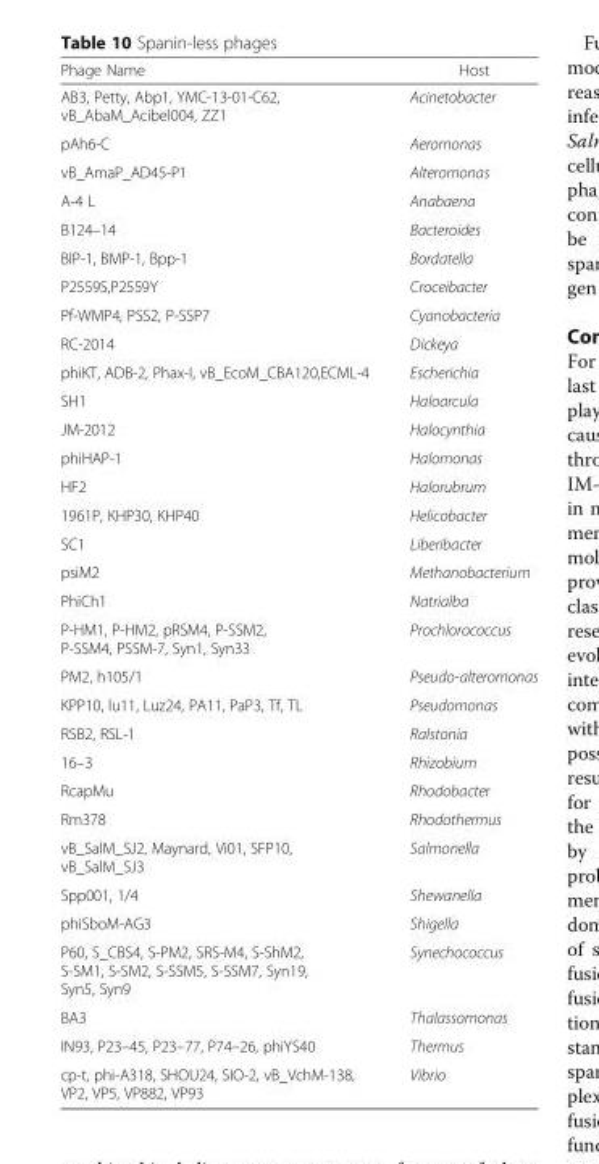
<table><thead><tr><td>Phage Name</td><td>Host</td></tr></thead><tbody><tr><td>AB3, Petty, Abp1, YMC-13-01-C62, vB_AbaM_Acibel004, ZZ1</td><td>Acinetobacter</td></tr><tr><td>pAh6-C</td><td>Aeromonas</td></tr><tr><td>vB_AmaP_AD45-P1</td><td>Alteromonas</td></tr><tr><td>A-4 L</td><td>Anabaena</td></tr><tr><td>B124–14</td><td>Bacteroides</td></tr><tr><td>BIP-1, BMP-1, Bpp-1</td><td>Bordatella</td></tr><tr><td>P2559S,P2559Y</td><td>Croceibacter</td></tr><tr><td>Pf-WMP4, PSS2, P-SSP7</td><td>Cyanobacteria</td></tr><tr><td>RC-2014</td><td>Dickeya</td></tr><tr><td>phiKT, ADB-2, Phax-I, vB_EcoM_CBA120,ECML-4</td><td>Escherichia</td></tr><tr><td>SH1</td><td>Haloarcula</td></tr><tr><td>JM-2012</td><td>Halocynthia</td></tr><tr><td>phiHAP-1</td><td>Halomonas</td></tr><tr><td>HF2</td><td>Halorubrum</td></tr><tr><td>1961P, KHP30, KHP40</td><td>Helicobacter</td></tr><tr><td>SC1</td><td>Liberibacter</td></tr><tr><td>psiM2</td><td>Methanobacterium</td></tr><tr><td>PhiCh1</td><td>Natrialba</td></tr><tr><td>P-HM1, P-HM2, pRSM4, P-SSM2, P-SSM4, PSSM-7, Syn1, Syn33</td><td>Prochlorococcus</td></tr><tr><td>PM2, h105/1</td><td>Pseudo-alteromonas</td></tr><tr><td>KPP10, lu11, Luz24, PA11, PaP3, Tf, TL</td><td>Pseudomonas</td></tr><tr><td>RSB2, RSL-1</td><td>Ralstonia</td></tr><tr><td>16–3</td><td>Rhizobium</td></tr><tr><td>RcapMu</td><td>Rhodobacter</td></tr><tr><td>Rm378</td><td>Rhodothermus</td></tr><tr><td>vB_SalM_SJ2, Maynard, Vi01, SFP10, vB_SalM_SJ3</td><td>Salmonella</td></tr><tr><td>Spp001, 1/4</td><td>Shewanella</td></tr><tr><td>phiSboM-AG3</td><td>Shigella</td></tr><tr><td>P60, S_CBS4, S-PM2, SRS-M4, S-ShM2, S-SM1, S-SM2, S-SSM5, S-SSM7, Syn19, Syn5, Syn9</td><td>Synechococcus</td></tr><tr><td>BA3</td><td>Thalassomonas</td></tr><tr><td>IN93, P23–45, P23–77, P74–26, phiYS40</td><td>Thermus</td></tr><tr><td>cp-t, phi-A318, SHOU24, SIO-2, vB_VchM-138, VP2, VP5, VP882, VP93</td><td>Vibrio</td></tr></tbody></table>